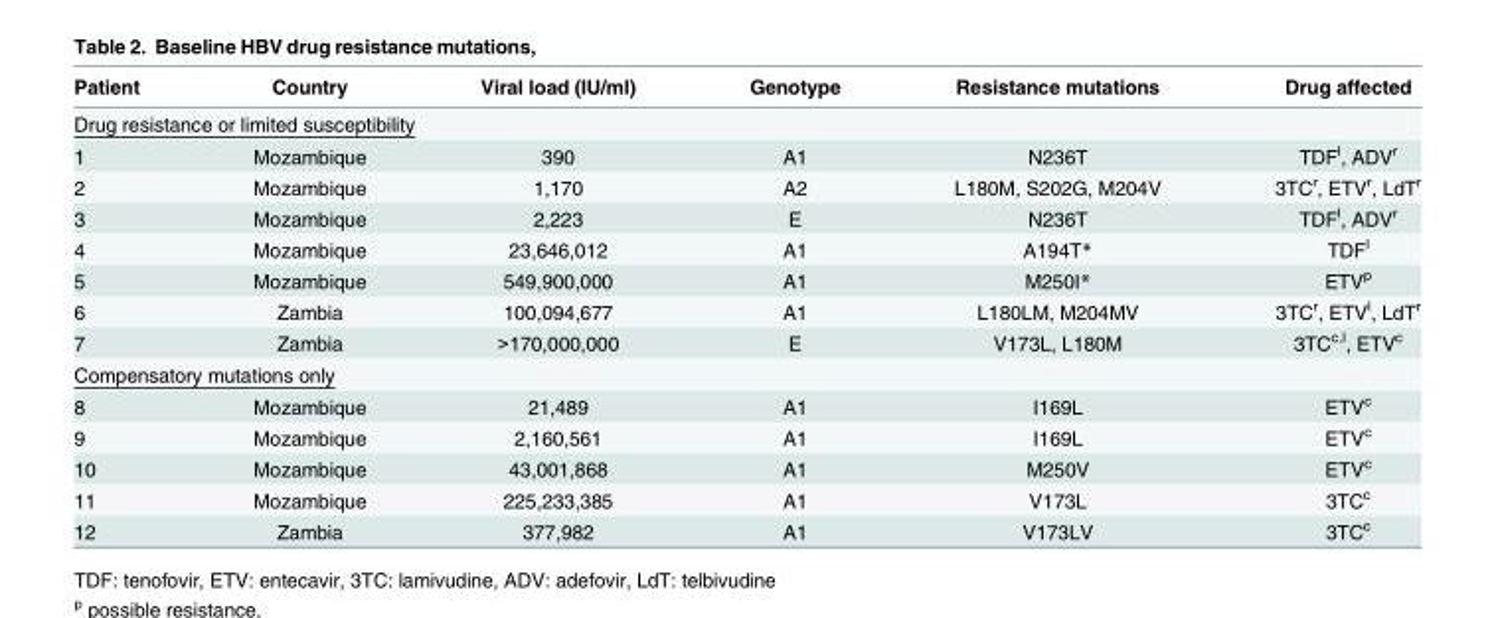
<table><thead><tr><td>Patient</td><td>Country</td><td>Viral load (IU/ml)</td><td>Genotype</td><td>Resistance mutations</td><td>Drug affected</td></tr></thead><tbody><tr><td colspan="6">Drug resistance or limited susceptibility</td></tr><tr><td>1</td><td>Mozambique</td><td>390</td><td>A1</td><td>N236T</td><td>TDF<sup>l</sup>, ADV<sup>r</sup></td></tr><tr><td>2</td><td>Mozambique</td><td>1,170</td><td>A2</td><td>L180M, S202G, M204V</td><td>3TC<sup>r</sup>, ETV<sup>r</sup>, LdT<sup>r</sup></td></tr><tr><td>3</td><td>Mozambique</td><td>2,223</td><td>E</td><td>N236T</td><td>TDF<sup>l</sup>, ADV<sup>r</sup></td></tr><tr><td>4</td><td>Mozambique</td><td>23,646,012</td><td>A1</td><td>A194T*</td><td>TDF<sup>l</sup></td></tr><tr><td>5</td><td>Mozambique</td><td>549,900,000</td><td>A1</td><td>M250I*</td><td>ETV<sup>p</sup></td></tr><tr><td>6</td><td>Zambia</td><td>100,094,677</td><td>A1</td><td>L180LM, M204MV</td><td>3TC<sup>r</sup>, ETV<sup>l</sup>, LdT<sup>r</sup></td></tr><tr><td>7</td><td>Zambia</td><td>&gt;170,000,000</td><td>E</td><td>V173L, L180M</td><td>3TC<sup>c,l</sup>, ETV<sup>c</sup></td></tr><tr><td colspan="6">Compensatory mutations only</td></tr><tr><td>8</td><td>Mozambique</td><td>21,489</td><td>A1</td><td>I169L</td><td>ETV<sup>c</sup></td></tr><tr><td>9</td><td>Mozambique</td><td>2,160,561</td><td>A1</td><td>I169L</td><td>ETV<sup>c</sup></td></tr><tr><td>10</td><td>Mozambique</td><td>43,001,868</td><td>A1</td><td>M250V</td><td>ETV<sup>c</sup></td></tr><tr><td>11</td><td>Mozambique</td><td>225,233,385</td><td>A1</td><td>V173L</td><td>3TC<sup>c</sup></td></tr><tr><td>12</td><td>Zambia</td><td>377,982</td><td>A1</td><td>V173LV</td><td>3TC<sup>c</sup></td></tr></tbody></table>